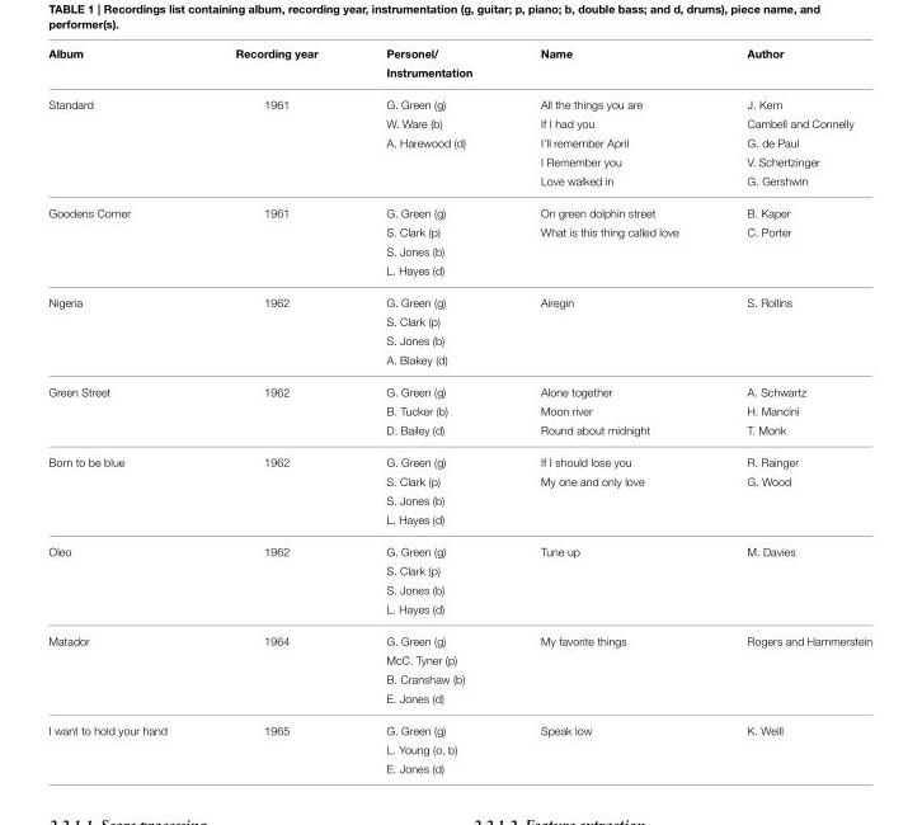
<table><thead><tr><td>Album</td><td>Recording year</td><td>Personel/ Instrumentation</td><td>Name</td><td>Author</td></tr></thead><tbody><tr><td rowspan="5">Standard</td><td>1961</td><td>G. Green (g)</td><td>All the things you are</td><td>J. Kern</td></tr><tr><td></td><td>W. Ware (b)</td><td>If I had you</td><td>Cambell and Connelly</td></tr><tr><td></td><td>A. Harewood (d)</td><td>I’ll remember April</td><td>G. de Paul</td></tr><tr><td></td><td></td><td>I Remember you</td><td>V. Schertzinger</td></tr><tr><td></td><td></td><td>Love walked in</td><td>G. Gershwin</td></tr><tr><td rowspan="4">Goodens Corner</td><td>1961</td><td>G. Green (g)</td><td>On green dolphin street</td><td>B. Kaper</td></tr><tr><td></td><td>S. Clark (p)</td><td>What is this thing called love</td><td>C. Porter</td></tr><tr><td></td><td>S. Jones (b)</td><td></td><td></td></tr><tr><td></td><td>L. Hayes (d)</td><td></td><td></td></tr><tr><td rowspan="4">Nigeria</td><td>1962</td><td>G. Green (g)</td><td>Airegin</td><td>S. Rollins</td></tr><tr><td></td><td>S. Clark (p)</td><td></td><td></td></tr><tr><td></td><td>S. Jones (b)</td><td></td><td></td></tr><tr><td></td><td>A. Blakey (d)</td><td></td><td></td></tr><tr><td rowspan="3">Green Street</td><td>1962</td><td>G. Green (g)</td><td>Alone together</td><td>A. Schwartz</td></tr><tr><td></td><td>B. Tucker (b)</td><td>Moon river</td><td>H. Mancini</td></tr><tr><td></td><td>D. Bailey (d)</td><td>Round about midnight</td><td>T. Monk</td></tr><tr><td rowspan="4">Born to be blue</td><td>1962</td><td>G. Green (g)</td><td>If I should lose you</td><td>R. Rainger</td></tr><tr><td></td><td>S. Clark (p)</td><td>My one and only love</td><td>G. Wood</td></tr><tr><td></td><td>S. Jones (b)</td><td></td><td></td></tr><tr><td></td><td>L. Hayes (d)</td><td></td><td></td></tr><tr><td rowspan="4">Oleo</td><td>1962</td><td>G. Green (g)</td><td>Tune up</td><td>M. Davies</td></tr><tr><td></td><td>S. Clark (p)</td><td></td><td></td></tr><tr><td></td><td>S. Jones (b)</td><td></td><td></td></tr><tr><td></td><td>L. Hayes (d)</td><td></td><td></td></tr><tr><td rowspan="4">Matador</td><td>1964</td><td>G. Green (g)</td><td>My favorite things</td><td>Rogers and Hammerstein</td></tr><tr><td></td><td>McC. Tyner (p)</td><td></td><td></td></tr><tr><td></td><td>B. Cranshaw (b)</td><td></td><td></td></tr><tr><td></td><td>E. Jones (d)</td><td></td><td></td></tr><tr><td rowspan="3">I want to hold your hand</td><td>1965</td><td>G. Green (g)</td><td>Speak low</td><td>K. Weill</td></tr><tr><td></td><td>L. Young (o, b)</td><td></td><td></td></tr><tr><td></td><td>E. Jones (d)</td><td></td><td></td></tr></tbody></table>